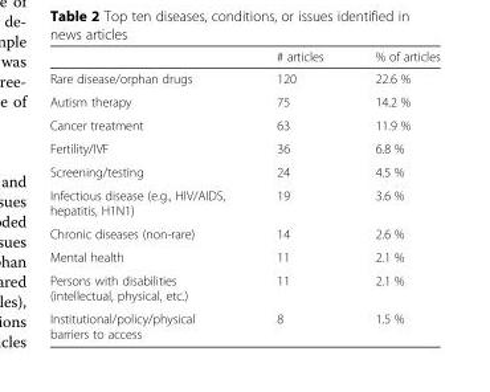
<table><thead><tr><td></td><td># articles</td><td>% of articles</td></tr></thead><tbody><tr><td>Rare disease/orphan drugs</td><td>120</td><td>22.6 %</td></tr><tr><td>Autism therapy</td><td>75</td><td>14.2 %</td></tr><tr><td>Cancer treatment</td><td>63</td><td>11.9 %</td></tr><tr><td>Fertility/IVF</td><td>36</td><td>6.8 %</td></tr><tr><td>Screening/testing</td><td>24</td><td>4.5 %</td></tr><tr><td>Infectious disease (e.g., HIV/AIDS, hepatitis, H1N1)</td><td>19</td><td>3.6 %</td></tr><tr><td>Chronic diseases (non-rare)</td><td>14</td><td>2.6 %</td></tr><tr><td>Mental health</td><td>11</td><td>2.1 %</td></tr><tr><td>Persons with disabilities (intellectual, physical, etc.)</td><td>11</td><td>2.1 %</td></tr><tr><td>Institutional/policy/physical barriers to access</td><td>8</td><td>1.5 %</td></tr></tbody></table>